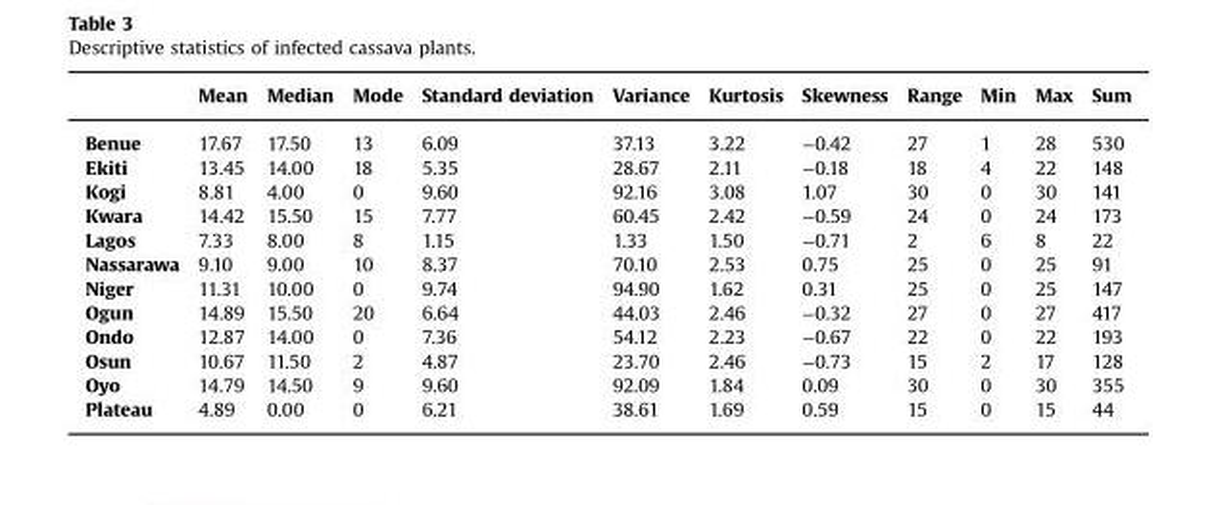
<table><thead><tr><td></td><td>Mean</td><td>Median</td><td>Mode</td><td>Standard deviation</td><td>Variance</td><td>Kurtosis</td><td>Skewness</td><td>Range</td><td>Min</td><td>Max</td><td>Sum</td></tr></thead><tbody><tr><td>Benue</td><td>17.67</td><td>17.50</td><td>13</td><td>6.09</td><td>37.13</td><td>3.22</td><td>−0.42</td><td>27</td><td>1</td><td>28</td><td>530</td></tr><tr><td>Ekiti</td><td>13.45</td><td>14.00</td><td>18</td><td>5.35</td><td>28.67</td><td>2.11</td><td>−0.18</td><td>18</td><td>4</td><td>22</td><td>148</td></tr><tr><td>Kogi</td><td>8.81</td><td>4.00</td><td>0</td><td>9.60</td><td>92.16</td><td>3.08</td><td>1.07</td><td>30</td><td>0</td><td>30</td><td>141</td></tr><tr><td>Kwara</td><td>14.42</td><td>15.50</td><td>15</td><td>7.77</td><td>60.45</td><td>2.42</td><td>−0.59</td><td>24</td><td>0</td><td>24</td><td>173</td></tr><tr><td>Lagos</td><td>7.33</td><td>8.00</td><td>8</td><td>1.15</td><td>1.33</td><td>1.50</td><td>−0.71</td><td>2</td><td>6</td><td>8</td><td>22</td></tr><tr><td>Nassarawa</td><td>9.10</td><td>9.00</td><td>10</td><td>8.37</td><td>70.10</td><td>2.53</td><td>0.75</td><td>25</td><td>0</td><td>25</td><td>91</td></tr><tr><td>Niger</td><td>11.31</td><td>10.00</td><td>0</td><td>9.74</td><td>94.90</td><td>1.62</td><td>0.31</td><td>25</td><td>0</td><td>25</td><td>147</td></tr><tr><td>Ogun</td><td>14.89</td><td>15.50</td><td>20</td><td>6.64</td><td>44.03</td><td>2.46</td><td>−0.32</td><td>27</td><td>0</td><td>27</td><td>417</td></tr><tr><td>Ondo</td><td>12.87</td><td>14.00</td><td>0</td><td>7.36</td><td>54.12</td><td>2.23</td><td>−0.67</td><td>22</td><td>0</td><td>22</td><td>193</td></tr><tr><td>Osun</td><td>10.67</td><td>11.50</td><td>2</td><td>4.87</td><td>23.70</td><td>2.46</td><td>−0.73</td><td>15</td><td>2</td><td>17</td><td>128</td></tr><tr><td>Oyo</td><td>14.79</td><td>14.50</td><td>9</td><td>9.60</td><td>92.09</td><td>1.84</td><td>0.09</td><td>30</td><td>0</td><td>30</td><td>355</td></tr><tr><td>Plateau</td><td>4.89</td><td>0.00</td><td>0</td><td>6.21</td><td>38.61</td><td>1.69</td><td>0.59</td><td>15</td><td>0</td><td>15</td><td>44</td></tr></tbody></table>